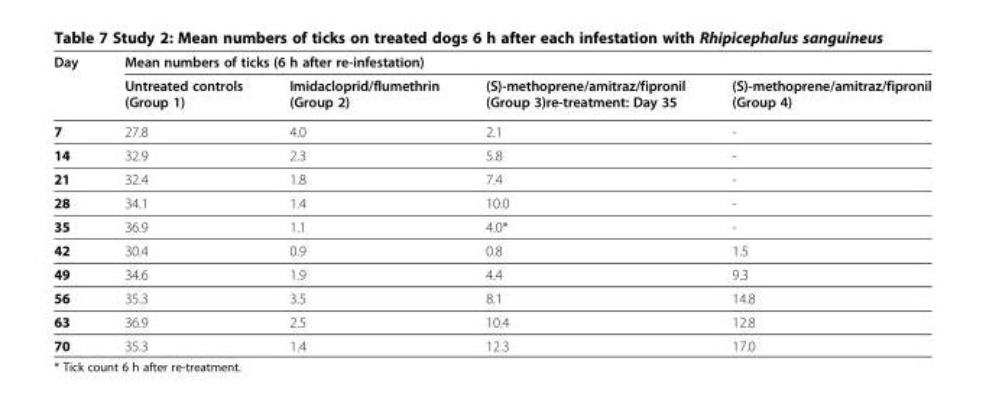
<table><thead><tr><td rowspan="2">Day</td><td colspan="4">Mean numbers of ticks (6 h after re-infestation)</td></tr><tr><td>Untreated controls (Group 1)</td><td>Imidacloprid/flumethrin (Group 2)</td><td>(S)-methoprene/amitraz/fipronil (Group 3)re-treatment: Day 35</td><td>(S)-methoprene/amitraz/fipronil (Group 4)</td></tr></thead><tbody><tr><td>7</td><td>27.8</td><td>4.0</td><td>2.1</td><td>-</td></tr><tr><td>14</td><td>32.9</td><td>2.3</td><td>5.8</td><td>-</td></tr><tr><td>21</td><td>32.4</td><td>1.8</td><td>7.4</td><td>-</td></tr><tr><td>28</td><td>34.1</td><td>1.4</td><td>10.0</td><td>-</td></tr><tr><td>35</td><td>36.9</td><td>1.1</td><td>4.0*</td><td>-</td></tr><tr><td>42</td><td>30.4</td><td>0.9</td><td>0.8</td><td>1.5</td></tr><tr><td>49</td><td>34.6</td><td>1.9</td><td>4.4</td><td>9.3</td></tr><tr><td>56</td><td>35.3</td><td>3.5</td><td>8.1</td><td>14.8</td></tr><tr><td>63</td><td>36.9</td><td>2.5</td><td>10.4</td><td>12.8</td></tr><tr><td>70</td><td>35.3</td><td>1.4</td><td>12.3</td><td>17.0</td></tr></tbody></table>